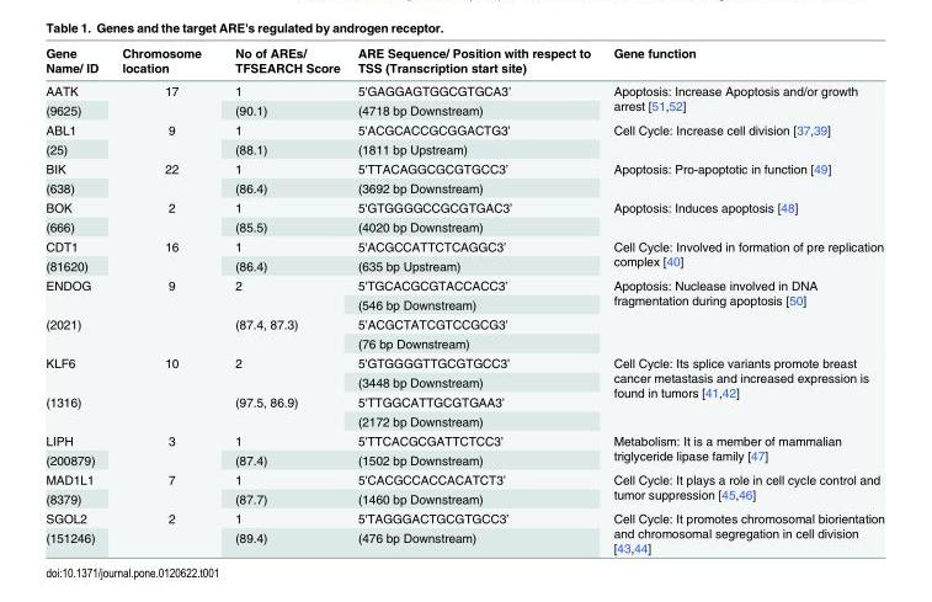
<table><thead><tr><td>Gene Name/ ID</td><td>Chromosome location</td><td>No of AREs/ TFSEARCH Score</td><td>ARE Sequence/ Position with respect to TSS (Transcription start site)</td><td>Gene function</td></tr></thead><tbody><tr><td>AATK</td><td rowspan="2">17</td><td>1</td><td>5&#x27;GAGGAGTGGCGTGCA3’</td><td rowspan="2">Apoptosis: Increase Apoptosis and/or growth arrest [51,52]</td></tr><tr><td>(9625)</td><td>(90.1)</td><td>(4718 bp Downstream)</td></tr><tr><td>ABL1</td><td rowspan="2">9</td><td>1</td><td>5&#x27;ACGCACCGCGGACTG3’</td><td rowspan="2">Cell Cycle: Increase cell division [37,39]</td></tr><tr><td>(25)</td><td>(88.1)</td><td>(1811 bp Upstream)</td></tr><tr><td>BIK</td><td rowspan="2">22</td><td>1</td><td>5&#x27;TTACAGGCGCGTGCC3’</td><td rowspan="2">Apoptosis: Pro-apoptotic in function [49]</td></tr><tr><td>(638)</td><td>(86.4)</td><td>(3692 bp Downstream)</td></tr><tr><td>BOK</td><td rowspan="2">2</td><td>1</td><td>5&#x27;GTGGGGCCGCGTGAC3’</td><td rowspan="2">Apoptosis: Induces apoptosis [48]</td></tr><tr><td>(666)</td><td>(85.5)</td><td>(4020 bp Downstream)</td></tr><tr><td>CDT1</td><td rowspan="2">16</td><td>1</td><td>5&#x27;ACGCCATTCTCAGGC3’</td><td rowspan="2">Cell Cycle: Involved in formation of pre replication complex [40]</td></tr><tr><td>(81620)</td><td>(86.4)</td><td>(635 bp Upstream)</td></tr><tr><td rowspan="2">ENDOG</td><td rowspan="4">9</td><td rowspan="2">2</td><td>5&#x27;TGCACGCGTACCACC3’</td><td rowspan="4">Apoptosis: Nuclease involved in DNA fragmentation during apoptosis [50]</td></tr><tr><td>(546 bp Downstream)</td></tr><tr><td rowspan="2">(2021)</td><td rowspan="2">(87.4, 87.3)</td><td>5’ACGCTATCGTCCGCG3’</td></tr><tr><td>(76 bp Downstream)</td></tr><tr><td rowspan="2">KLF6</td><td rowspan="4">10</td><td rowspan="2">2</td><td>5&#x27;GTGGGGTTGCGTGCC3’</td><td rowspan="4">Cell Cycle: Its splice variants promote breast cancer metastasis and increased expression is found in tumors [41,42]</td></tr><tr><td>(3448 bp Downstream)</td></tr><tr><td rowspan="2">(1316)</td><td rowspan="2">(97.5, 86.9)</td><td>5&#x27;TTGGCATTGCGTGAA3’</td></tr><tr><td>(2172 bp Downstream)</td></tr><tr><td>LIPH</td><td rowspan="2">3</td><td>1</td><td>5&#x27;TTCACGCGATTCTCC3’</td><td rowspan="2">Metabolism: It is a member of mammalian triglyceride lipase family [47]</td></tr><tr><td>(200879)</td><td>(87.4)</td><td>(1502 bp Downstream)</td></tr><tr><td>MAD1L1</td><td rowspan="2">7</td><td>1</td><td>5&#x27;CACGCCACCACATCT3’</td><td rowspan="2">Cell Cycle: It plays a role in cell cycle control and tumor suppression [45,46]</td></tr><tr><td>(8379)</td><td>(87.7)</td><td>(1460 bp Downstream)</td></tr><tr><td>SGOL2</td><td rowspan="2">2</td><td>1</td><td>5&#x27;TAGGGACTGCGTGCC3’</td><td rowspan="2">Cell Cycle: It promotes chromosomal biorientation and chromosomal segregation in cell division [43,44]</td></tr><tr><td>(151246)</td><td>(89.4)</td><td>(476 bp Downstream)</td></tr></tbody></table>